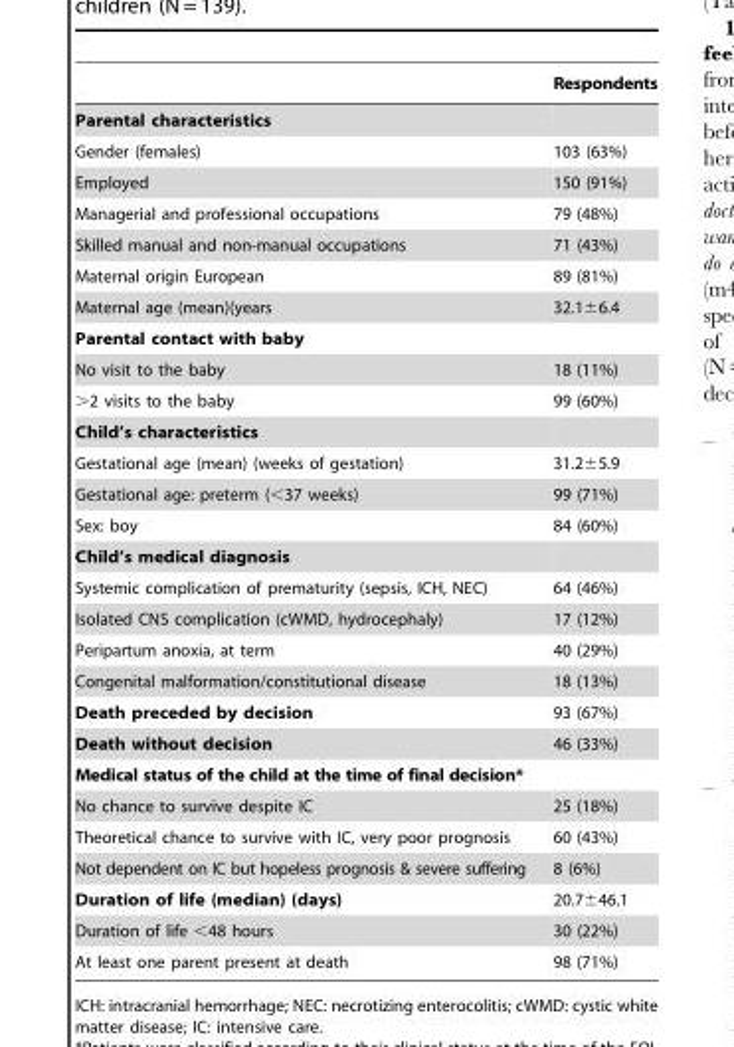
<table><thead><tr><td></td><td>Respondents</td></tr></thead><tbody><tr><td colspan="2">Parental characteristics</td></tr><tr><td>Gender (females)</td><td>103 (63%)</td></tr><tr><td>Employed</td><td>150 (91%)</td></tr><tr><td>Managerial and professional occupations</td><td>79 (48%)</td></tr><tr><td>Skilled manual and non-manual occupations</td><td>71 (43%)</td></tr><tr><td>Maternal origin European</td><td>89 (81%)</td></tr><tr><td>Maternal age (mean)(years</td><td>32.1±6.4</td></tr><tr><td colspan="2">Parental contact with baby</td></tr><tr><td>No visit to the baby</td><td>18 (11%)</td></tr><tr><td>&gt;2 visits to the baby</td><td>99 (60%)</td></tr><tr><td colspan="2">Child’s characteristics</td></tr><tr><td>Gestational age (mean) (weeks of gestation)</td><td>31.2±5.9</td></tr><tr><td>Gestational age: preterm (&lt;37 weeks)</td><td>99 (71%)</td></tr><tr><td>Sex: boy</td><td>84 (60%)</td></tr><tr><td colspan="2">Child’s medical diagnosis</td></tr><tr><td>Systemic complication of prematurity (sepsis, ICH, NEC)</td><td>64 (46%)</td></tr><tr><td>Isolated CNS complication (cWMD, hydrocephaly)</td><td>17 (12%)</td></tr><tr><td>Peripartum anoxia, at term</td><td>40 (29%)</td></tr><tr><td>Congenital malformation/constitutional disease</td><td>18 (13%)</td></tr><tr><td>Death preceded by decision</td><td>93 (67%)</td></tr><tr><td>Death without decision</td><td>46 (33%)</td></tr><tr><td colspan="2">Medical status of the child at the time of final decision*</td></tr><tr><td>No chance to survive despite IC</td><td>25 (18%)</td></tr><tr><td>Theoretical chance to survive with IC, very poor prognosis</td><td>60 (43%)</td></tr><tr><td>Not dependent on IC but hopeless prognosis &amp; severe suffering</td><td>8 (6%)</td></tr><tr><td>Duration of life (median) (days)</td><td>20.7±46.1</td></tr><tr><td>Duration of life &lt;48 hours</td><td>30 (22%)</td></tr><tr><td>At least one parent present at death</td><td>98 (71%)</td></tr></tbody></table>